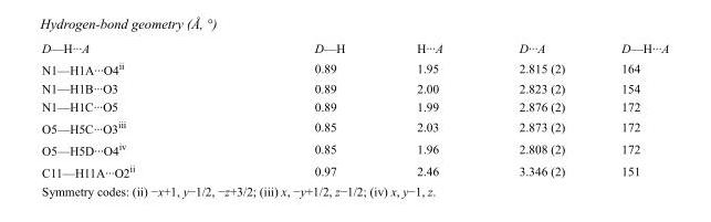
<table><tbody><tr><td>D—H···A</td><td>D—H</td><td>H···A</td><td>D···A</td><td>D—H···A</td></tr><tr><td>N1—H1A···O4<sup>ii</sup></td><td>0.89</td><td>1.95</td><td>2.815 (2)</td><td>164</td></tr><tr><td>N1—H1B···O3</td><td>0.89</td><td>2.00</td><td>2.823 (2)</td><td>154</td></tr><tr><td>N1—H1C···O5</td><td>0.89</td><td>1.99</td><td>2.876 (2)</td><td>172</td></tr><tr><td>O5—H5C···O3<sup>iii</sup></td><td>0.85</td><td>2.03</td><td>2.873 (2)</td><td>172</td></tr><tr><td>O5—H5D···O4<sup>iv</sup></td><td>0.85</td><td>1.96</td><td>2.808 (2)</td><td>172</td></tr><tr><td>C11—H11A···O2<sup>ii</sup></td><td>0.97</td><td>2.46</td><td>3.346 (2)</td><td>151</td></tr></tbody></table>